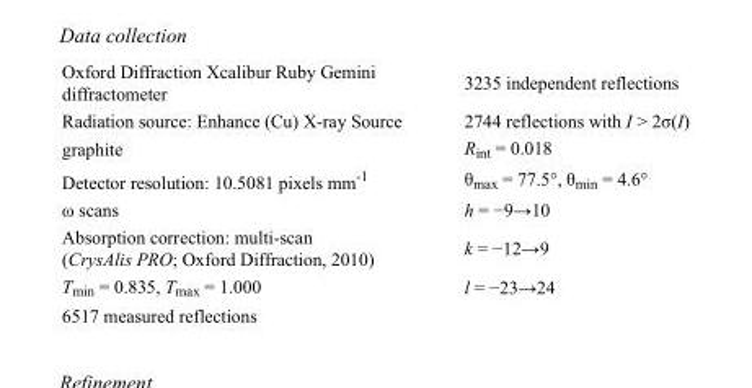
<table><tbody><tr><td>Oxford Diffraction Xcalibur Ruby Gemini diffractometer</td><td>3235 independent reflections</td></tr><tr><td>Radiation source: Enhance (Cu) X-ray Source</td><td>2744 reflections with I &gt; 2σ(I)</td></tr><tr><td>graphite</td><td>R<sub>int</sub> = 0.018</td></tr><tr><td>Detector resolution: 10.5081 pixels mm<sup>-1</sup></td><td>θ<sub>max</sub> = 77.5°, θ<sub>min</sub> = 4.6°</td></tr><tr><td>ω scans</td><td>h = −9→10</td></tr><tr><td>Absorption correction: multi-scan (CrysAlis PRO; Oxford Diffraction, 2010)</td><td>k = −12→9</td></tr><tr><td>T<sub>min</sub> = 0.835, T<sub>max</sub> = 1.000</td><td>l = −23→24</td></tr><tr><td>6517 measured reflections</td><td></td></tr></tbody></table>